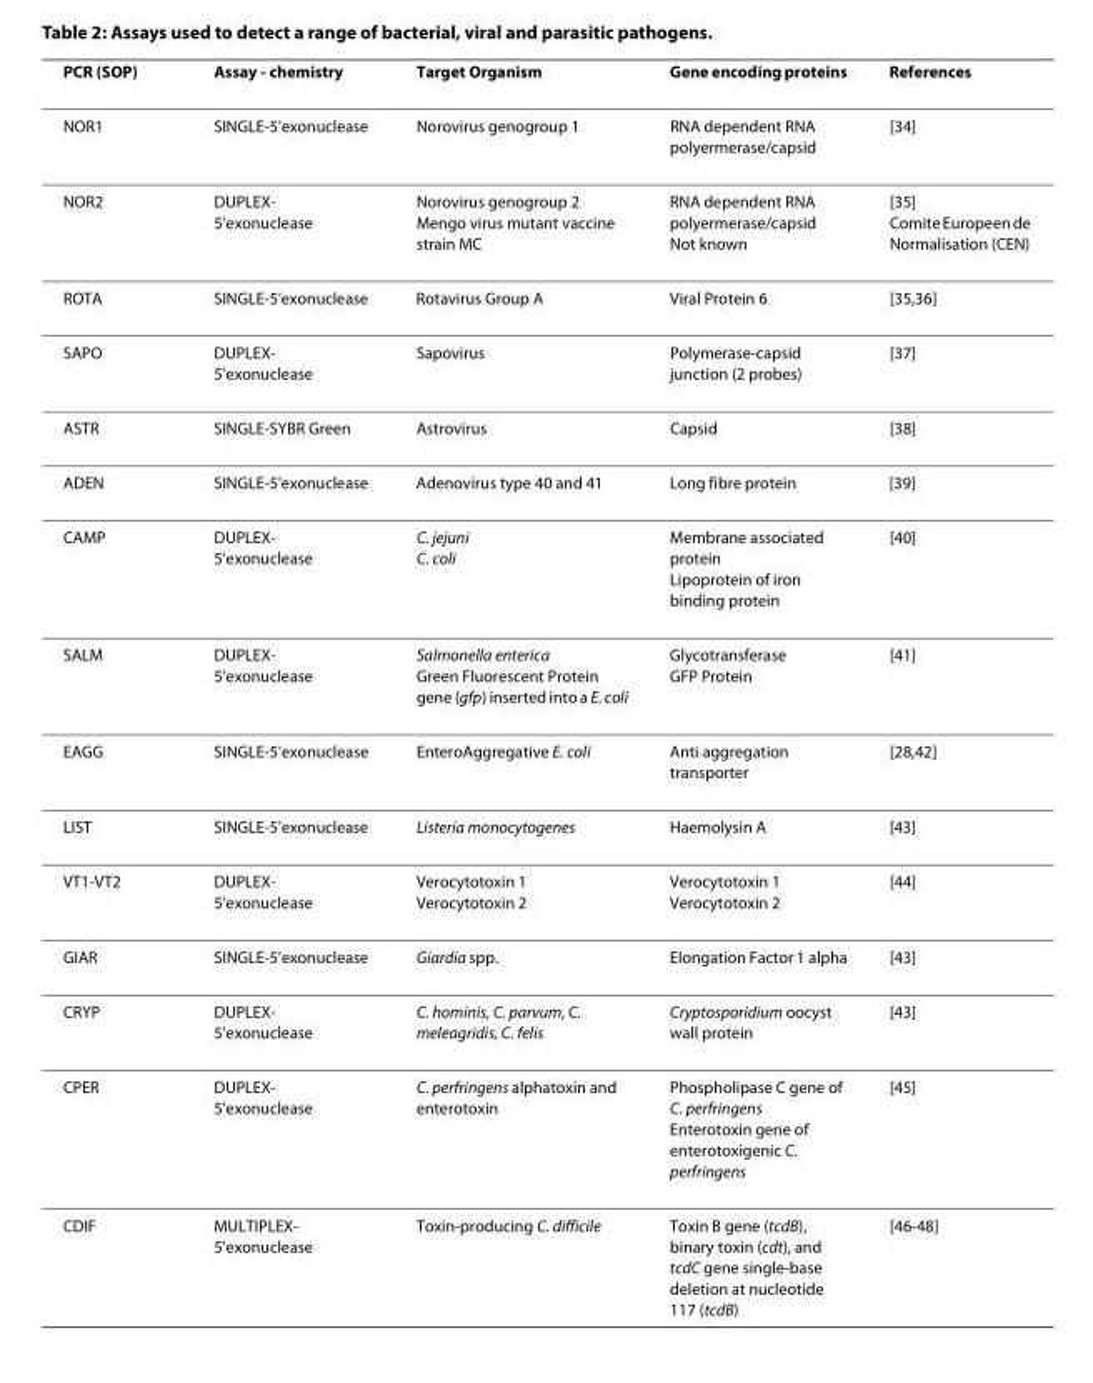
<table><thead><tr><td>PCR (SOP)</td><td>Assay - chemistry</td><td>Target Organism</td><td>Gene encoding proteins</td><td>References</td></tr></thead><tbody><tr><td>NOR1</td><td>SINGLE-5&#x27;exonuclease</td><td>Norovirus genogroup 1</td><td>RNA dependent RNA polyermerase/capsid</td><td>[34]</td></tr><tr><td>NOR2</td><td>DUPLEX- 5&#x27;exonuclease</td><td>Norovirus genogroup 2 Mengo virus mutant vaccine strain MC</td><td>RNA dependent RNA polyermerase/capsid Not known</td><td>[35] Comite Europeen de Normalisation (CEN)</td></tr><tr><td>ROTA</td><td>SINGLE-5&#x27;exonuclease</td><td>Rotavirus Group A</td><td>Viral Protein 6</td><td>[35,36]</td></tr><tr><td>SAPO</td><td>DUPLEX- 5&#x27;exonuclease</td><td>Sapovirus</td><td>Polymerase-capsid junction (2 probes)</td><td>[37]</td></tr><tr><td>ASTR</td><td>SINGLE-SYBR Green</td><td>Astrovirus</td><td>Capsid</td><td>[38]</td></tr><tr><td>ADEN</td><td>SINGLE-5&#x27;exonuclease</td><td>Adenovirus type 40 and 41</td><td>Long fibre protein</td><td>[39]</td></tr><tr><td>CAMP</td><td>DUPLEX- 5&#x27;exonuclease</td><td>C. jejuni C. coli</td><td>Membrane associated protein Lipoprotein of iron binding protein</td><td>[40]</td></tr><tr><td>SALM</td><td>DUPLEX- 5&#x27;exonuclease</td><td>Salmonella enterica Green Fluorescent Protein gene (gfp) inserted into a E. coli</td><td>Glycotransferase GFP Protein</td><td>[41]</td></tr><tr><td>EAGG</td><td>SINGLE-5&#x27;exonuclease</td><td>EnteroAggregative E. coli</td><td>Anti aggregation transporter</td><td>[28,42]</td></tr><tr><td>LIST</td><td>SINGLE-5&#x27;exonuclease</td><td>Listeria monocytogenes</td><td>Haemolysin A</td><td>[43]</td></tr><tr><td>VT1-VT2</td><td>DUPLEX- 5&#x27;exonuclease</td><td>Verocytotoxin 1 Verocytotoxin 2</td><td>Verocytotoxin 1 Verocytotoxin 2</td><td>[44]</td></tr><tr><td>GIAR</td><td>SINGLE-5&#x27;exonuclease</td><td>Giardia spp.</td><td>Elongation Factor 1 alpha</td><td>[43]</td></tr><tr><td>CRYP</td><td>DUPLEX- 5&#x27;exonuclease</td><td>C. hominis, C. parvum, C. meleagridis, C. felis</td><td>Cryptosporidium oocyst wall protein</td><td>[43]</td></tr><tr><td>CPER</td><td>DUPLEX- 5&#x27;exonuclease</td><td>C. perfringens alphatoxin and enterotoxin</td><td>Phospholipase C gene of C. perfringens Enterotoxin gene of enterotoxigenic C. perfringens</td><td>[45]</td></tr><tr><td>CDIF</td><td>MULTIPLEX- 5&#x27;exonuclease</td><td>Toxin-producing C. difficile</td><td>Toxin B gene (tcdB), binary toxin (cdt), and tcdC gene single-base deletion at nucleotide 117 (tcdB)</td><td>[46-48]</td></tr></tbody></table>